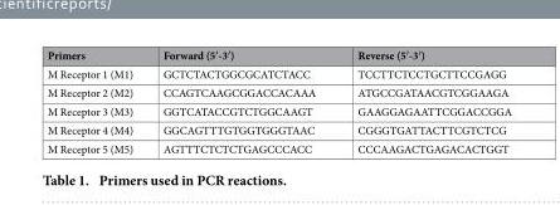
<table><thead><tr><td>Primers</td><td>Forward (5′ -3′ )</td><td>Reverse (5′ -3′ )</td></tr></thead><tbody><tr><td>M Receptor 1 (M1)</td><td>GCTCTACTGGCGCATCTACC</td><td>TCCTTCTCCTGCTTCCGAGG</td></tr><tr><td>M Receptor 2 (M2)</td><td>CCAGTCAAGCGGACCACAAA</td><td>ATGCCGATAACGTCGGAAGA</td></tr><tr><td>M Receptor 3 (M3)</td><td>GGTCATACCGTCTGGCAAGT</td><td>GAAGGAGAATTCGGACCGGA</td></tr><tr><td>M Receptor 4 (M4)</td><td>GGCAGTTTGTGGTGGGTAAC</td><td>CGGGTGATTACTTCGTCTCG</td></tr><tr><td>M Receptor 5 (M5)</td><td>AGTTTCTCTCTGAGCCCACC</td><td>CCCAAGACTGAGACACTGGT</td></tr></tbody></table>